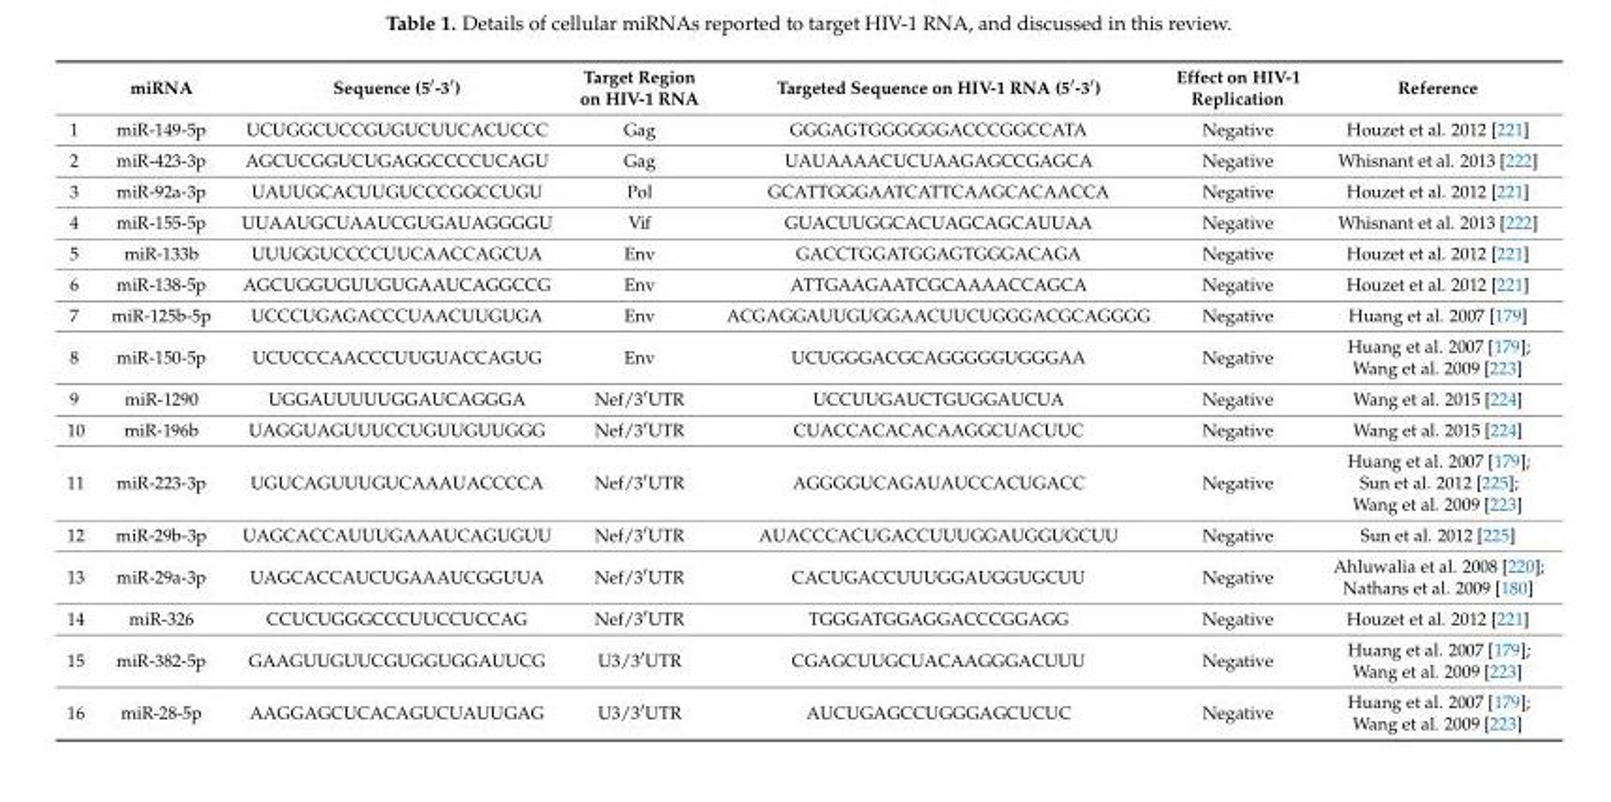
<table><thead><tr><td></td><td>miRNA</td><td>Sequence (5′-3′)</td><td>Target Region on HIV-1 RNA</td><td>Targeted Sequence on HIV-1 RNA (5′-3′)</td><td>Effect on HIV-1 Replication</td><td>Reference</td></tr></thead><tbody><tr><td>1</td><td>miR-149-5p</td><td>UCUGGCUCCGUGUCUUCACUCCC</td><td>Gag</td><td>GGGAGTGGGGGGACCCGGCCATA</td><td>Negative</td><td>Houzet et al. 2012 [221]</td></tr><tr><td>2</td><td>miR-423-3p</td><td>AGCUCGGUCUGAGGCCCCUCAGU</td><td>Gag</td><td>UAUAAAACUCUAAGAGCCGAGCA</td><td>Negative</td><td>Whisnant et al. 2013 [222]</td></tr><tr><td>3</td><td>miR-92a-3p</td><td>UAUUGCACUUGUCCCGGCCUGU</td><td>Pol</td><td>GCATTGGGAATCATTCAAGCACAACCA</td><td>Negative</td><td>Houzet et al. 2012 [221]</td></tr><tr><td>4</td><td>miR-155-5p</td><td>UUAAUGCUAAUCGUGAUAGGGGU</td><td>Vif</td><td>GUACUUGGCACUAGCAGCAUUAA</td><td>Negative</td><td>Whisnant et al. 2013 [222]</td></tr><tr><td>5</td><td>miR-133b</td><td>UUUGGUCCCCUUCAACCAGCUA</td><td>Env</td><td>GACCTGGATGGAGTGGGACAGA</td><td>Negative</td><td>Houzet et al. 2012 [221]</td></tr><tr><td>6</td><td>miR-138-5p</td><td>AGCUGGUGUUGUGAAUCAGGCCG</td><td>Env</td><td>ATTGAAGAATCGCAAAACCAGCA</td><td>Negative</td><td>Houzet et al. 2012 [221]</td></tr><tr><td>7</td><td>miR-125b-5p</td><td>UCCCUGAGACCCUAACUUGUGA</td><td>Env</td><td>ACGAGGAUUGUGGAACUUCUGGGACGCAGGGG</td><td>Negative</td><td>Huang et al. 2007 [179]</td></tr><tr><td>8</td><td>miR-150-5p</td><td>UCUCCCAACCCUUGUACCAGUG</td><td>Env</td><td>UCUGGGACGCAGGGGGUGGGAA</td><td>Negative</td><td>Huang et al. 2007 [179]; Wang et al. 2009 [223]</td></tr><tr><td>9</td><td>miR-1290</td><td>UGGAUUUUUGGAUCAGGGA</td><td>Nef/3′UTR</td><td>UCCUUGAUCTGUGGAUCUA</td><td>Negative</td><td>Wang et al. 2015 [224]</td></tr><tr><td>10</td><td>miR-196b</td><td>UAGGUAGUUUCCUGUUGUUGGG</td><td>Nef/3′UTR</td><td>CUACCACACACAAGGCUACUUC</td><td>Negative</td><td>Wang et al. 2015 [224]</td></tr><tr><td>11</td><td>miR-223-3p</td><td>UGUCAGUUUGUCAAAUACCCCA</td><td>Nef/3′UTR</td><td>AGGGGUCAGAUAUCCACUGACC</td><td>Negative</td><td>Huang et al. 2007 [179]; Sun et al. 2012 [225]; Wang et al. 2009 [223]</td></tr><tr><td>12</td><td>miR-29b-3p</td><td>UAGCACCAUUUGAAAUCAGUGUU</td><td>Nef/3′UTR</td><td>AUACCCACUGACCUUUGGAUGGUGCUU</td><td>Negative</td><td>Sun et al. 2012 [225]</td></tr><tr><td>13</td><td>miR-29a-3p</td><td>UAGCACCAUCUGAAAUCGGUUA</td><td>Nef/3′UTR</td><td>CACUGACCUUUGGAUGGUGCUU</td><td>Negative</td><td>Ahluwalia et al. 2008 [220]; Nathans et al. 2009 [180]</td></tr><tr><td>14</td><td>miR-326</td><td>CCUCUGGGCCCUUCCUCCAG</td><td>Nef/3′UTR</td><td>TGGGATGGAGGACCCGGAGG</td><td>Negative</td><td>Houzet et al. 2012 [221]</td></tr><tr><td>15</td><td>miR-382-5p</td><td>GAAGUUGUUCGUGGUGGAUUCG</td><td>U3/3′UTR</td><td>CGAGCUUGCUACAAGGGACUUU</td><td>Negative</td><td>Huang et al. 2007 [179]; Wang et al. 2009 [223]</td></tr><tr><td>16</td><td>miR-28-5p</td><td>AAGGAGCUCACAGUCUAUUGAG</td><td>U3/3′UTR</td><td>AUCUGAGCCUGGGAGCUCUC</td><td>Negative</td><td>Huang et al. 2007 [179]; Wang et al. 2009 [223]</td></tr></tbody></table>